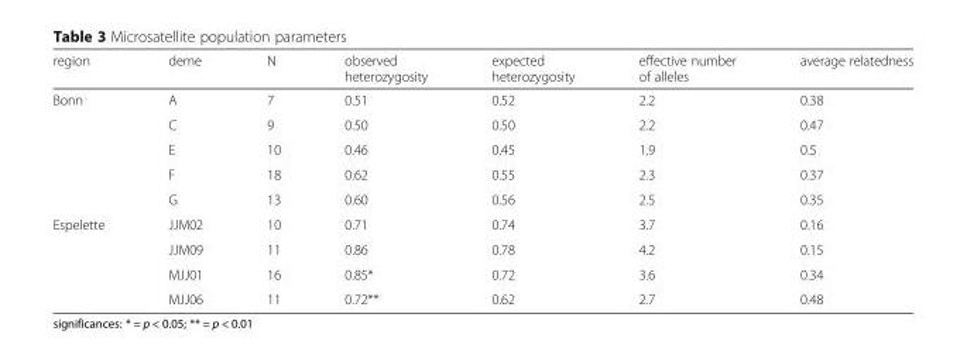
<table><thead><tr><td>region</td><td>deme</td><td>N</td><td>observed heterozygosity</td><td>expected heterozygosity</td><td>effective number of alleles</td><td>average relatedness</td></tr></thead><tbody><tr><td rowspan="5">Bonn</td><td>A</td><td>7</td><td>0.51</td><td>0.52</td><td>2.2</td><td>0.38</td></tr><tr><td>C</td><td>9</td><td>0.50</td><td>0.50</td><td>2.2</td><td>0.47</td></tr><tr><td>E</td><td>10</td><td>0.46</td><td>0.45</td><td>1.9</td><td>0.5</td></tr><tr><td>F</td><td>18</td><td>0.62</td><td>0.55</td><td>2.3</td><td>0.37</td></tr><tr><td>G</td><td>13</td><td>0.60</td><td>0.56</td><td>2.5</td><td>0.35</td></tr><tr><td rowspan="4">Espelette</td><td>JJM02</td><td>10</td><td>0.71</td><td>0.74</td><td>3.7</td><td>0.16</td></tr><tr><td>JJM09</td><td>11</td><td>0.86</td><td>0.78</td><td>4.2</td><td>0.15</td></tr><tr><td>MJJ01</td><td>16</td><td>0.85*</td><td>0.72</td><td>3.6</td><td>0.34</td></tr><tr><td>MJJ06</td><td>11</td><td>0.72**</td><td>0.62</td><td>2.7</td><td>0.48</td></tr></tbody></table>